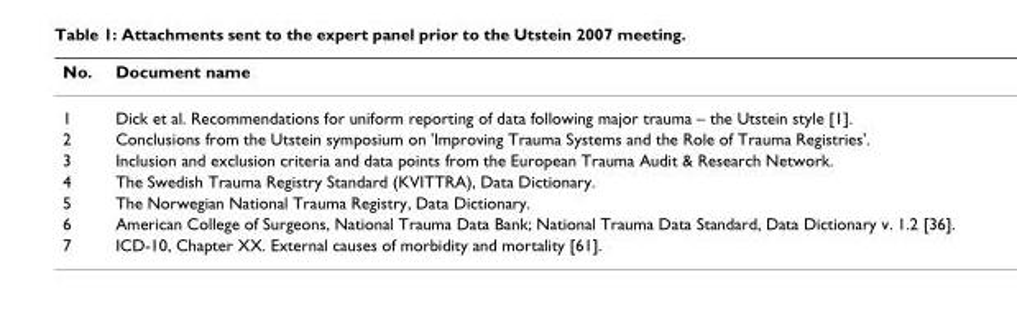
<table><thead><tr><td>No.</td><td>Document name</td></tr></thead><tbody><tr><td>1</td><td>Dick et al. Recommendations for uniform reporting of data following major trauma – the Utstein style [1].</td></tr><tr><td>2</td><td>Conclusions from the Utstein symposium on &#x27;Improving Trauma Systems and the Role of Trauma Registries&#x27;.</td></tr><tr><td>3</td><td>Inclusion and exclusion criteria and data points from the European Trauma Audit &amp; Research Network.</td></tr><tr><td>4</td><td>The Swedish Trauma Registry Standard (KVITTRA), Data Dictionary.</td></tr><tr><td>5</td><td>The Norwegian National Trauma Registry, Data Dictionary.</td></tr><tr><td>6</td><td>American College of Surgeons, National Trauma Data Bank; National Trauma Data Standard, Data Dictionary v. 1.2 [36].</td></tr><tr><td>7</td><td>ICD-10, Chapter XX. External causes of morbidity and mortality [61].</td></tr></tbody></table>